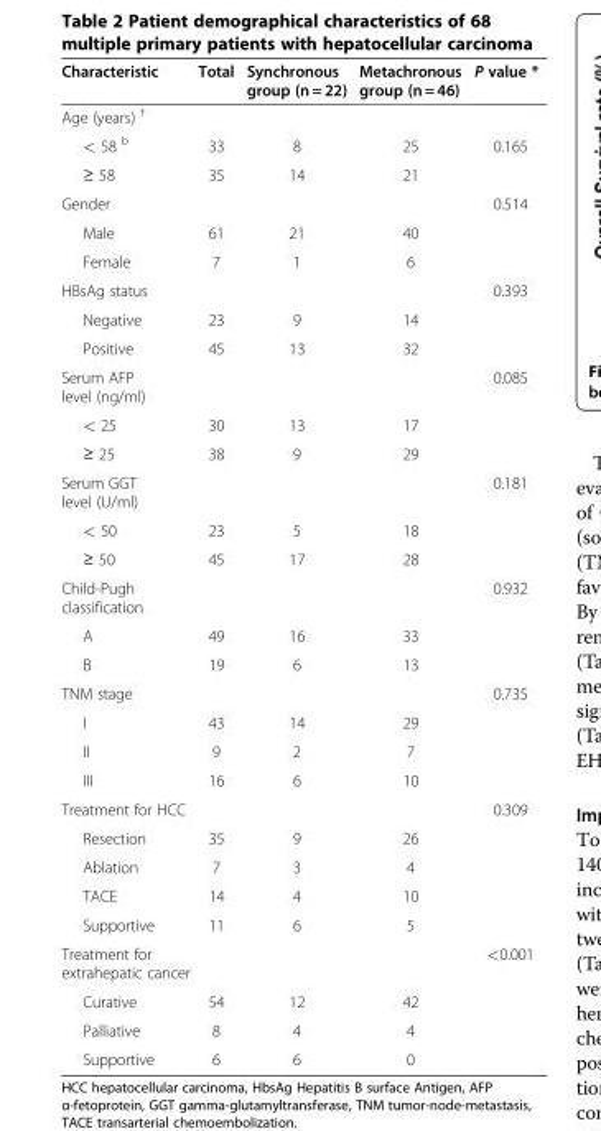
<table><thead><tr><td>Characteristic</td><td>Total</td><td>Synchronous group (n = 22)</td><td>Metachronous group (n = 46)</td><td>P value *</td></tr></thead><tbody><tr><td colspan="5">Age (years) <sup>†</sup></td></tr><tr><td>&lt; 58 <sup>b</sup></td><td>33</td><td>8</td><td>25</td><td>0.165</td></tr><tr><td>≥ 58</td><td>35</td><td>14</td><td>21</td><td></td></tr><tr><td>Gender</td><td></td><td></td><td></td><td>0.514</td></tr><tr><td>Male</td><td>61</td><td>21</td><td>40</td><td></td></tr><tr><td>Female</td><td>7</td><td>1</td><td>6</td><td></td></tr><tr><td>HBsAg status</td><td></td><td></td><td></td><td>0.393</td></tr><tr><td>Negative</td><td>23</td><td>9</td><td>14</td><td></td></tr><tr><td>Positive</td><td>45</td><td>13</td><td>32</td><td></td></tr><tr><td>Serum AFP level (ng/ml)</td><td></td><td></td><td></td><td>0.085</td></tr><tr><td>&lt; 25</td><td>30</td><td>13</td><td>17</td><td></td></tr><tr><td>≥ 25</td><td>38</td><td>9</td><td>29</td><td></td></tr><tr><td>Serum GGT level (U/ml)</td><td></td><td></td><td></td><td>0.181</td></tr><tr><td>&lt; 50</td><td>23</td><td>5</td><td>18</td><td></td></tr><tr><td>≥ 50</td><td>45</td><td>17</td><td>28</td><td></td></tr><tr><td>Child-Pugh classification</td><td></td><td></td><td></td><td>0.932</td></tr><tr><td>A</td><td>49</td><td>16</td><td>33</td><td></td></tr><tr><td>B</td><td>19</td><td>6</td><td>13</td><td></td></tr><tr><td>TNM stage</td><td></td><td></td><td></td><td>0.735</td></tr><tr><td>I</td><td>43</td><td>14</td><td>29</td><td></td></tr><tr><td>II</td><td>9</td><td>2</td><td>7</td><td></td></tr><tr><td>III</td><td>16</td><td>6</td><td>10</td><td></td></tr><tr><td>Treatment for HCC</td><td></td><td></td><td></td><td>0.309</td></tr><tr><td>Resection</td><td>35</td><td>9</td><td>26</td><td></td></tr><tr><td>Ablation</td><td>7</td><td>3</td><td>4</td><td></td></tr><tr><td>TACE</td><td>14</td><td>4</td><td>10</td><td></td></tr><tr><td>Supportive</td><td>11</td><td>6</td><td>5</td><td></td></tr><tr><td colspan="2">Treatment for extrahepatic cancer</td><td></td><td></td><td>&lt;0.001</td></tr><tr><td>Curative</td><td>54</td><td>12</td><td>42</td><td></td></tr><tr><td>Palliative</td><td>8</td><td>4</td><td>4</td><td></td></tr><tr><td>Supportive</td><td>6</td><td>6</td><td>0</td><td></td></tr></tbody></table>